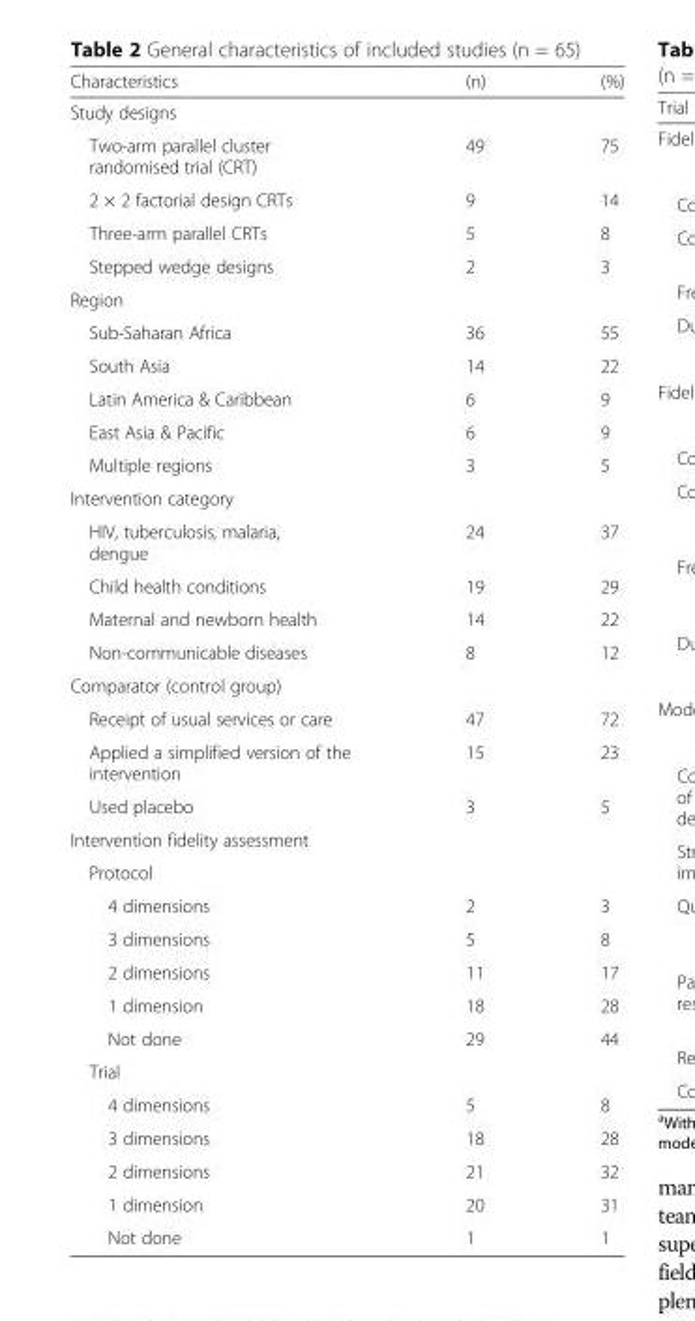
<table><thead><tr><td>Characteristics</td><td>(n)</td><td>(%)</td></tr></thead><tbody><tr><td colspan="3">Study designs</td></tr><tr><td>Two-arm parallel cluster randomised trial (CRT)</td><td>49</td><td>75</td></tr><tr><td>2 × 2 factorial design CRTs</td><td>9</td><td>14</td></tr><tr><td>Three-arm parallel CRTs</td><td>5</td><td>8</td></tr><tr><td>Stepped wedge designs</td><td>2</td><td>3</td></tr><tr><td colspan="3">Region</td></tr><tr><td>Sub-Saharan Africa</td><td>36</td><td>55</td></tr><tr><td>South Asia</td><td>14</td><td>22</td></tr><tr><td>Latin America &amp; Caribbean</td><td>6</td><td>9</td></tr><tr><td>East Asia &amp; Pacific</td><td>6</td><td>9</td></tr><tr><td>Multiple regions</td><td>3</td><td>5</td></tr><tr><td colspan="3">Intervention category</td></tr><tr><td>HIV, tuberculosis, malaria, dengue</td><td>24</td><td>37</td></tr><tr><td>Child health conditions</td><td>19</td><td>29</td></tr><tr><td>Maternal and newborn health</td><td>14</td><td>22</td></tr><tr><td>Non-communicable diseases</td><td>8</td><td>12</td></tr><tr><td colspan="3">Comparator (control group)</td></tr><tr><td>Receipt of usual services or care</td><td>47</td><td>72</td></tr><tr><td>Applied a simplified version of the intervention</td><td>15</td><td>23</td></tr><tr><td>Used placebo</td><td>3</td><td>5</td></tr><tr><td colspan="3">Intervention fidelity assessment</td></tr><tr><td colspan="3">Protocol</td></tr><tr><td>4 dimensions</td><td>2</td><td>3</td></tr><tr><td>3 dimensions</td><td>5</td><td>8</td></tr><tr><td>2 dimensions</td><td>11</td><td>17</td></tr><tr><td>1 dimension</td><td>18</td><td>28</td></tr><tr><td>Not done</td><td>29</td><td>44</td></tr><tr><td colspan="3">Trial</td></tr><tr><td>4 dimensions</td><td>5</td><td>8</td></tr><tr><td>3 dimensions</td><td>18</td><td>28</td></tr><tr><td>2 dimensions</td><td>21</td><td>32</td></tr><tr><td>1 dimension</td><td>20</td><td>31</td></tr><tr><td>Not done</td><td>1</td><td>1</td></tr></tbody></table>